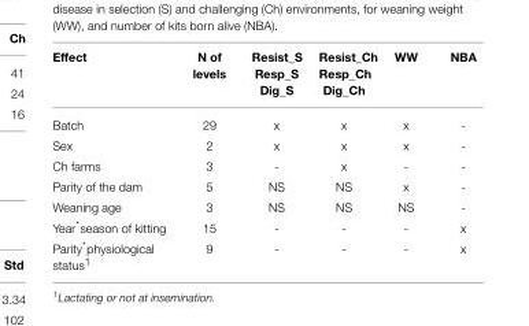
<table><thead><tr><td>Effect</td><td>N of levels</td><td>Resist_S Resp_S Dig_S</td><td>Resist_Ch Resp_Ch Dig_Ch</td><td>WW</td><td>NBA</td></tr></thead><tbody><tr><td>Batch</td><td>29</td><td>x</td><td>x</td><td>x</td><td>-</td></tr><tr><td>Sex</td><td>2</td><td>x</td><td>x</td><td>x</td><td>-</td></tr><tr><td>Ch farms</td><td>3</td><td>-</td><td>x</td><td>-</td><td>-</td></tr><tr><td>Parity of the dam</td><td>5</td><td>NS</td><td>NS</td><td>x</td><td>-</td></tr><tr><td>Weaning age</td><td>3</td><td>NS</td><td>NS</td><td>NS</td><td>-</td></tr><tr><td>Year*season of kitting</td><td>15</td><td>-</td><td>-</td><td>-</td><td>x</td></tr><tr><td>Parity*physiological status<sup>1</sup></td><td>9</td><td>-</td><td>-</td><td>-</td><td>x</td></tr></tbody></table>